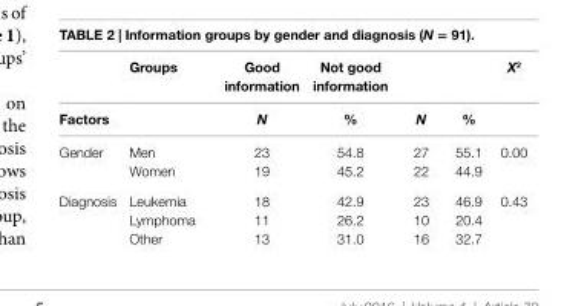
<table><thead><tr><td rowspan="2">Factors</td><td rowspan="2">groups</td><td rowspan="2">good information N</td><td rowspan="2">not good information %</td><td rowspan="2">N</td><td rowspan="2">%</td><td rowspan="2">X2</td></tr><tr></tr></thead><tbody><tr><td rowspan="2">Gender</td><td>Men</td><td>23</td><td>54.8</td><td>27</td><td>55.1</td><td>0.00</td></tr><tr><td>Women</td><td>19</td><td>45.2</td><td>22</td><td>44.9</td><td></td></tr><tr><td rowspan="3">Diagnosis</td><td>Leukemia</td><td>18</td><td>42.9</td><td>23</td><td>46.9</td><td>0.43</td></tr><tr><td>Lymphoma</td><td>11</td><td>26.2</td><td>10</td><td>20.4</td><td></td></tr><tr><td>Other</td><td>13</td><td>31.0</td><td>16</td><td>32.7</td><td></td></tr></tbody></table>